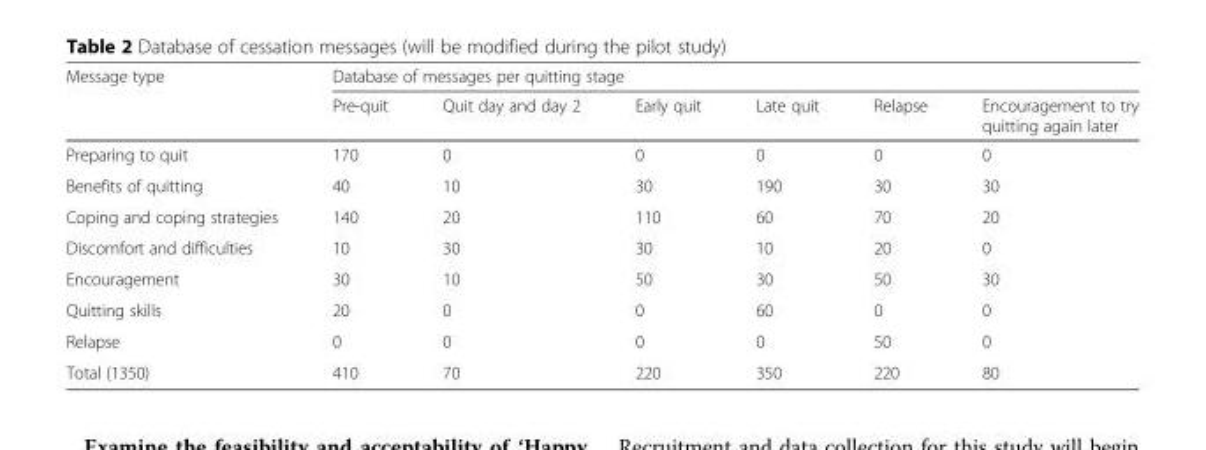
<table><thead><tr><td rowspan="2">Message type</td><td colspan="6">Database of messages per quitting stage</td></tr><tr><td>Pre-quit</td><td>Quit day and day 2</td><td>Early quit</td><td>Late quit</td><td>Relapse</td><td>Encouragement to try quitting again later</td></tr></thead><tbody><tr><td>Preparing to quit</td><td>170</td><td>0</td><td>0</td><td>0</td><td>0</td><td>0</td></tr><tr><td>Benefits of quitting</td><td>40</td><td>10</td><td>30</td><td>190</td><td>30</td><td>30</td></tr><tr><td>Coping and coping strategies</td><td>140</td><td>20</td><td>110</td><td>60</td><td>70</td><td>20</td></tr><tr><td>Discomfort and difficulties</td><td>10</td><td>30</td><td>30</td><td>10</td><td>20</td><td>0</td></tr><tr><td>Encouragement</td><td>30</td><td>10</td><td>50</td><td>30</td><td>50</td><td>30</td></tr><tr><td>Quitting skills</td><td>20</td><td>0</td><td>0</td><td>60</td><td>0</td><td>0</td></tr><tr><td>Relapse</td><td>0</td><td>0</td><td>0</td><td>0</td><td>50</td><td>0</td></tr><tr><td>Total (1350)</td><td>410</td><td>70</td><td>220</td><td>350</td><td>220</td><td>80</td></tr></tbody></table>